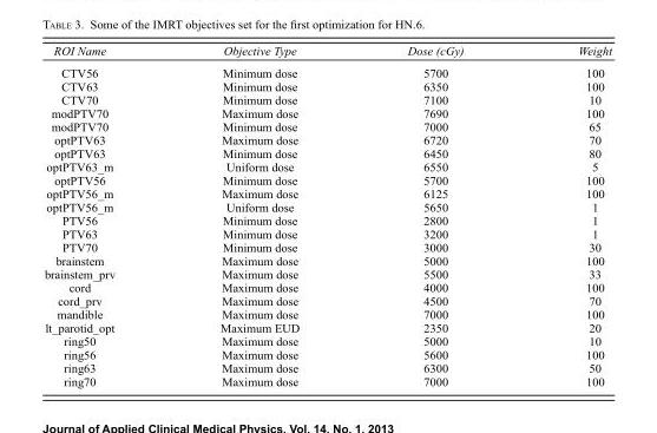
<table><thead><tr><td>ROI Name</td><td>Objective Type</td><td>Dose (cGy)</td><td>Weight</td></tr></thead><tbody><tr><td>CTV56</td><td>Minimum dose</td><td>5700</td><td>100</td></tr><tr><td>CTV63</td><td>Minimum dose</td><td>6350</td><td>100</td></tr><tr><td>CTV70</td><td>Minimum dose</td><td>7100</td><td>10</td></tr><tr><td>modPTV70</td><td>Maximum dose</td><td>7690</td><td>100</td></tr><tr><td>modPTV70</td><td>Minimum dose</td><td>7000</td><td>65</td></tr><tr><td>optPTV63</td><td>Maximum dose</td><td>6720</td><td>70</td></tr><tr><td>optPTV63</td><td>Minimum dose</td><td>6450</td><td>80</td></tr><tr><td>optPTV63_m</td><td>Uniform dose</td><td>6550</td><td>5</td></tr><tr><td>optPTV56</td><td>Minimum dose</td><td>5700</td><td>100</td></tr><tr><td>optPTV56_m</td><td>Maximum dose</td><td>6125</td><td>100</td></tr><tr><td>optPTV56_m</td><td>Uniform dose</td><td>5650</td><td>1</td></tr><tr><td>PTV56</td><td>Minimum dose</td><td>2800</td><td>1</td></tr><tr><td>PTV63</td><td>Minimum dose</td><td>3200</td><td>1</td></tr><tr><td>PTV70</td><td>Minimum dose</td><td>3000</td><td>30</td></tr><tr><td>brainstem</td><td>Maximum dose</td><td>5000</td><td>100</td></tr><tr><td>brainstem_prv</td><td>Maximum dose</td><td>5500</td><td>33</td></tr><tr><td>cord</td><td>Maximum dose</td><td>4000</td><td>100</td></tr><tr><td>cord_prv</td><td>Maximum dose</td><td>4500</td><td>70</td></tr><tr><td>mandible</td><td>Maximum dose</td><td>7000</td><td>100</td></tr><tr><td>lt_parotid_opt</td><td>Maximum EUD</td><td>2350</td><td>20</td></tr><tr><td>ring50</td><td>Maximum dose</td><td>5000</td><td>10</td></tr><tr><td>ring56</td><td>Maximum dose</td><td>5600</td><td>100</td></tr><tr><td>ring63</td><td>Maximum dose</td><td>6300</td><td>50</td></tr><tr><td>ring70</td><td>Maximum dose</td><td>7000</td><td>100</td></tr></tbody></table>